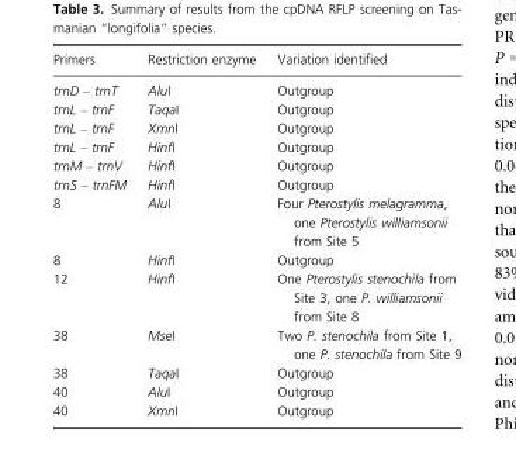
<table><thead><tr><td>Primers</td><td>Restriction enzyme</td><td>Variation identified</td></tr></thead><tbody><tr><td>trnD – trnT</td><td>AluI</td><td>Outgroup</td></tr><tr><td>trnL – trnF</td><td>TaqaI</td><td>Outgroup</td></tr><tr><td>trnL – trnF</td><td>XmnI</td><td>Outgroup</td></tr><tr><td>trnL – trnF</td><td>HinfI</td><td>Outgroup</td></tr><tr><td>trnM – trnV</td><td>HinfI</td><td>Outgroup</td></tr><tr><td>trnS – trnFM</td><td>HinfI</td><td>Outgroup</td></tr><tr><td>8</td><td>AluI</td><td>Four Pterostylis melagramma, one Pterostylis williamsonii from Site 5</td></tr><tr><td>8</td><td>HinfI</td><td>Outgroup</td></tr><tr><td>12</td><td>HinfI</td><td>One Pterostylis stenochila from Site 3, one P. williamsonii from Site 8</td></tr><tr><td>38</td><td>MseI</td><td>Two P. stenochila from Site 1, one P. stenochila from Site 9</td></tr><tr><td>38</td><td>TaqaI</td><td>Outgroup</td></tr><tr><td>40</td><td>AluI</td><td>Outgroup</td></tr><tr><td>40</td><td>XmnI</td><td>Outgroup</td></tr></tbody></table>